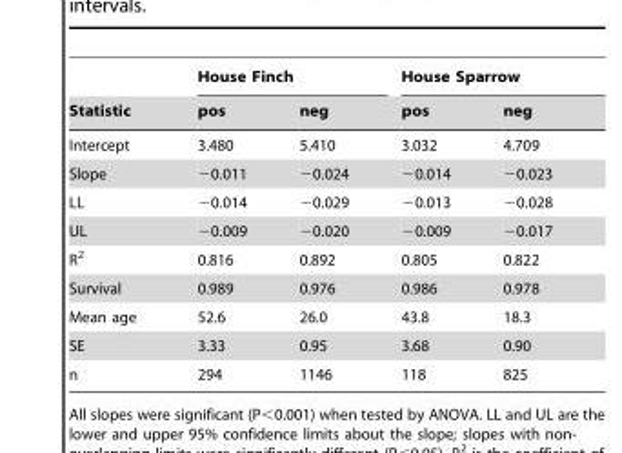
<table><thead><tr><td rowspan="2">Statistic</td><td colspan="2">House Finch</td><td colspan="2">House Sparrow</td></tr><tr><td>pos</td><td>neg</td><td>pos</td><td>neg</td></tr></thead><tbody><tr><td>Intercept</td><td>3.480</td><td>5.410</td><td>3.032</td><td>4.709</td></tr><tr><td>Slope</td><td>−0.011</td><td>−0.024</td><td>−0.014</td><td>−0.023</td></tr><tr><td>LL</td><td>−0.014</td><td>−0.029</td><td>−0.013</td><td>−0.028</td></tr><tr><td>UL</td><td>−0.009</td><td>−0.020</td><td>−0.009</td><td>−0.017</td></tr><tr><td>R<sup>2</sup></td><td>0.816</td><td>0.892</td><td>0.805</td><td>0.822</td></tr><tr><td>Survival</td><td>0.989</td><td>0.976</td><td>0.986</td><td>0.978</td></tr><tr><td>Mean age</td><td>52.6</td><td>26.0</td><td>43.8</td><td>18.3</td></tr><tr><td>SE</td><td>3.33</td><td>0.95</td><td>3.68</td><td>0.90</td></tr><tr><td>n</td><td>294</td><td>1146</td><td>118</td><td>825</td></tr></tbody></table>